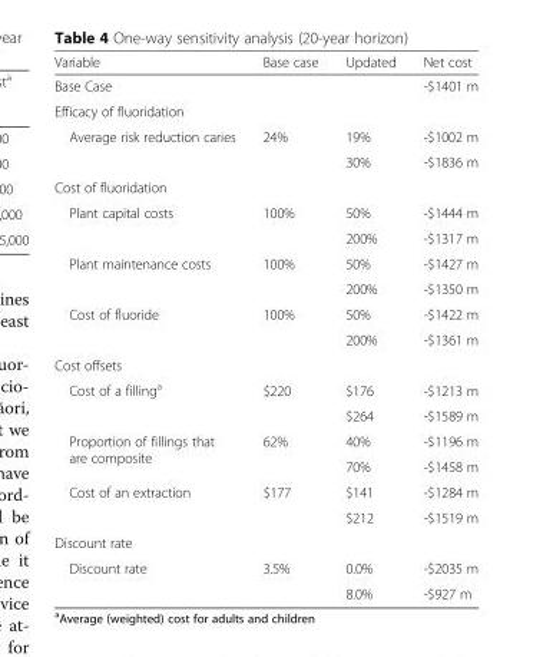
<table><thead><tr><td>Variable</td><td>Base case</td><td>Updated</td><td>Net cost</td></tr></thead><tbody><tr><td colspan="3">Base Case</td><td>-$1401 m</td></tr><tr><td colspan="4">Efficacy of fluoridation</td></tr><tr><td rowspan="2">Average risk reduction caries</td><td rowspan="2">24%</td><td>19%</td><td>-$1002 m</td></tr><tr><td>30%</td><td>-$1836 m</td></tr><tr><td colspan="4">Cost of fluoridation</td></tr><tr><td rowspan="2">Plant capital costs</td><td rowspan="2">100%</td><td>50%</td><td>-$1444 m</td></tr><tr><td>200%</td><td>-$1317 m</td></tr><tr><td rowspan="2">Plant maintenance costs</td><td rowspan="2">100%</td><td>50%</td><td>-$1427 m</td></tr><tr><td>200%</td><td>-$1350 m</td></tr><tr><td rowspan="2">Cost of fluoride</td><td rowspan="2">100%</td><td>50%</td><td>-$1422 m</td></tr><tr><td>200%</td><td>-$1361 m</td></tr><tr><td colspan="4">Cost offsets</td></tr><tr><td rowspan="2">Cost of a filling<sup>a</sup></td><td rowspan="2">$220</td><td>$176</td><td>-$1213 m</td></tr><tr><td>$264</td><td>-$1589 m</td></tr><tr><td rowspan="2">Proportion of fillings that are composite</td><td rowspan="2">62%</td><td>40%</td><td>-$1196 m</td></tr><tr><td>70%</td><td>-$1458 m</td></tr><tr><td rowspan="2">Cost of an extraction</td><td rowspan="2">$177</td><td>$141</td><td>-$1284 m</td></tr><tr><td>$212</td><td>-$1519 m</td></tr><tr><td colspan="4">Discount rate</td></tr><tr><td rowspan="2">Discount rate</td><td rowspan="2">3.5%</td><td>0.0%</td><td>-$2035 m</td></tr><tr><td>8.0%</td><td>-$927 m</td></tr></tbody></table>